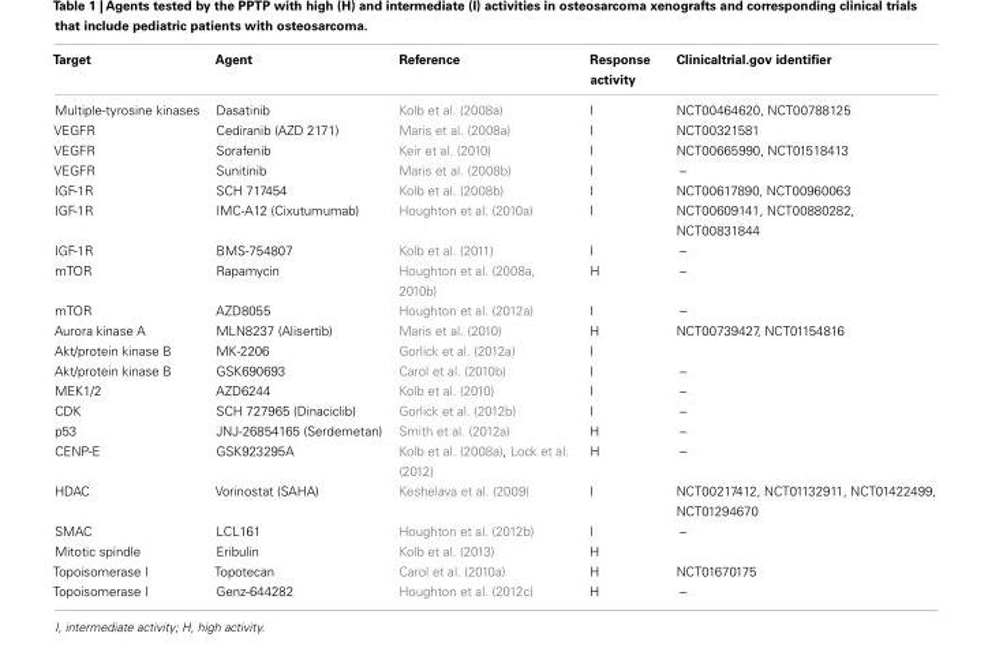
<table><thead><tr><td>Target</td><td>Agent</td><td>Reference</td><td>Response activity</td><td>Clinicaltrial.gov identifier</td></tr></thead><tbody><tr><td>Multiple-tyrosine kinases</td><td>Dasatinib</td><td>Kolb et al. (2008a)</td><td>I</td><td>NCT00464620, NCT00788125</td></tr><tr><td>VEGFR</td><td>Cediranib (AZD 2171)</td><td>Maris et al. (2008a)</td><td>I</td><td>NCT00321581</td></tr><tr><td>VEGFR</td><td>Sorafenib</td><td>Keir et al. (2010)</td><td>I</td><td>NCT00665990, NCT01518413</td></tr><tr><td>VEGFR</td><td>Sunitinib</td><td>Maris et al. (2008b)</td><td>I</td><td>–</td></tr><tr><td>IGF-1R</td><td>SCH 717454</td><td>Kolb et al. (2008b)</td><td>I</td><td>NCT00617890, NCT00960063</td></tr><tr><td>IGF-1R</td><td>IMC-A12 (Cixutumumab)</td><td>Houghton et al. (2010a)</td><td>I</td><td>NCT00609141, NCT00880282, NCT00831844</td></tr><tr><td>IGF-1R</td><td>BMS-754807</td><td>Kolb et al. (2011)</td><td>I</td><td>–</td></tr><tr><td>mTOR</td><td>Rapamycin</td><td>Houghton et al. (2008a, 2010b)</td><td>H</td><td>–</td></tr><tr><td>mTOR</td><td>AZD8055</td><td>Houghton et al. (2012a)</td><td>I</td><td>–</td></tr><tr><td>Aurora kinase A</td><td>MLN8237 (Alisertib)</td><td>Maris et al. (2010)</td><td>H</td><td>NCT00739427, NCT01154816</td></tr><tr><td>Akt/protein kinase B</td><td>MK-2206</td><td>Gorlick et al. (2012a)</td><td>I</td><td></td></tr><tr><td>Akt/protein kinase B</td><td>GSK690693</td><td>Carol et al. (2010b)</td><td>I</td><td>–</td></tr><tr><td>MEK1/2</td><td>AZD6244</td><td>Kolb et al. (2010)</td><td>I</td><td>–</td></tr><tr><td>CDK</td><td>SCH 727965 (Dinaciclib)</td><td>Gorlick et al. (2012b)</td><td>I</td><td>–</td></tr><tr><td>p53</td><td>JNJ-26854165 (Serdemetan)</td><td>Smith et al. (2012a)</td><td>H</td><td>–</td></tr><tr><td>CENP-E</td><td>GSK923295A</td><td>Kolb et al. (2008a), Lock et al. (2012)</td><td>H</td><td>–</td></tr><tr><td>HDAC</td><td>Vorinostat (SAHA)</td><td>Keshelava et al. (2009)</td><td>I</td><td>NCT00217412, NCT01132911, NCT01422499, NCT01294670</td></tr><tr><td>SMAC</td><td>LCL161</td><td>Houghton et al. (2012b)</td><td>I</td><td>–</td></tr><tr><td>Mitotic spindle</td><td>Eribulin</td><td>Kolb et al. (2013)</td><td>H</td><td></td></tr><tr><td>Topoisomerase I</td><td>Topotecan</td><td>Carol et al. (2010a)</td><td>H</td><td>NCT01670175</td></tr><tr><td>Topoisomerase I</td><td>Genz-644282</td><td>Houghton et al. (2012c)</td><td>H</td><td>–</td></tr></tbody></table>